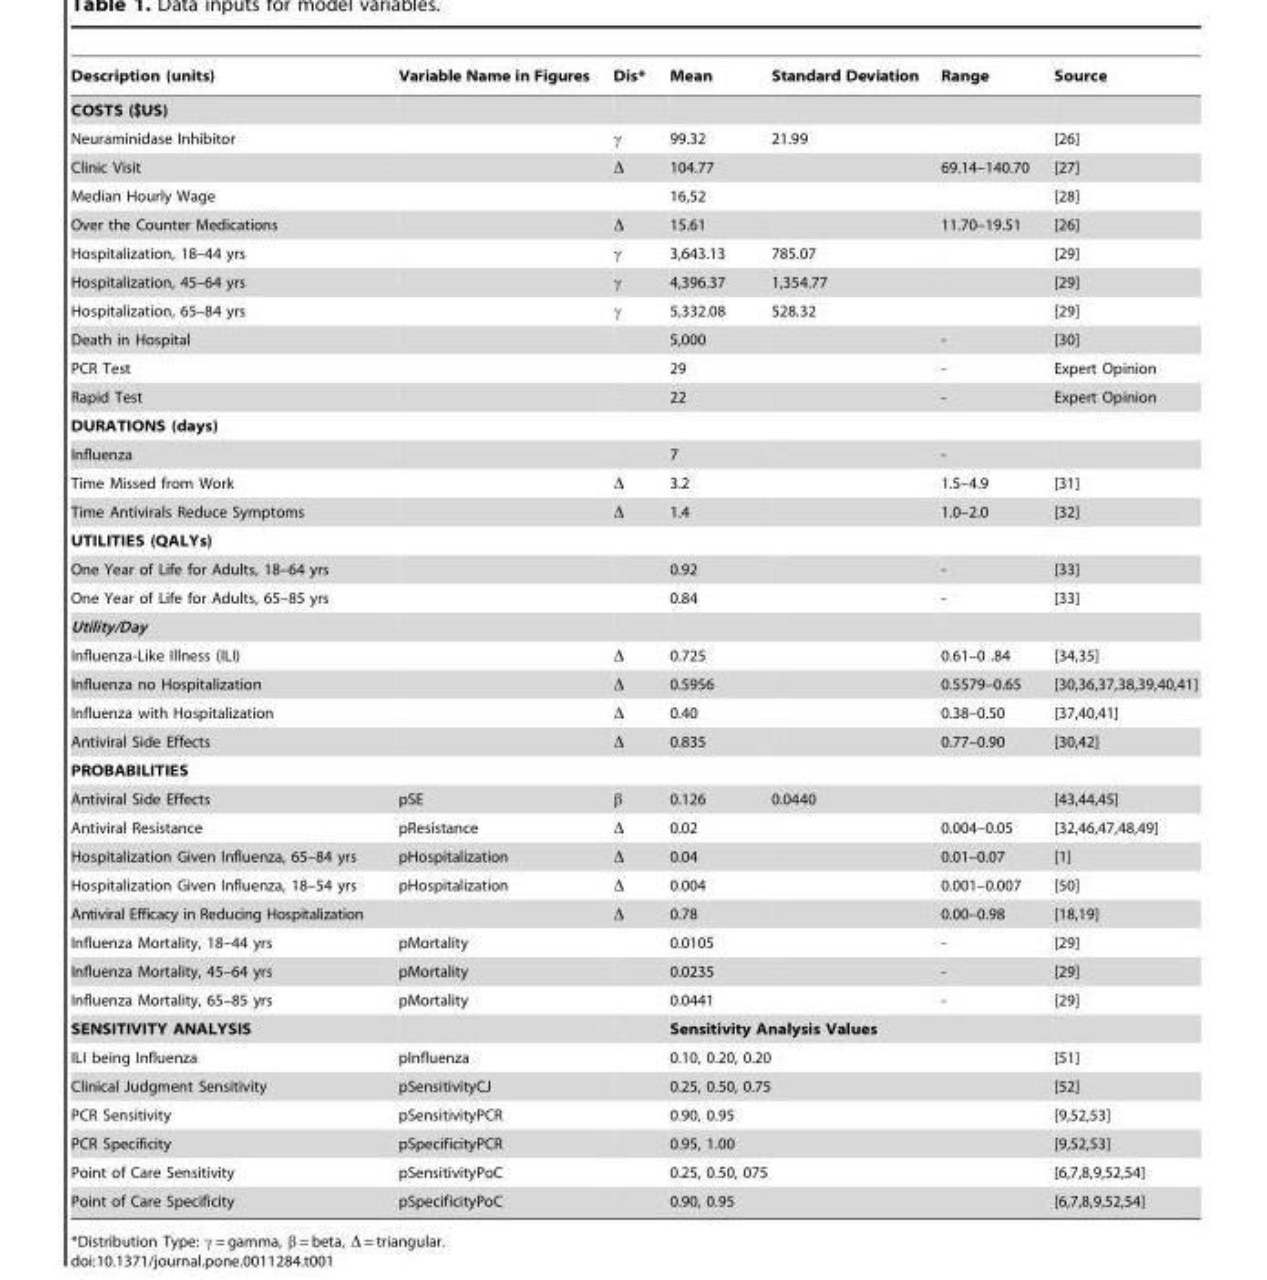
<table><thead><tr><td>Description (units)</td><td>Variable Name in Figures</td><td>Dis*</td><td>Mean</td><td>Standard Deviation</td><td>Range</td><td>Source</td></tr></thead><tbody><tr><td colspan="7">COSTS ($US)</td></tr><tr><td>Neuraminidase Inhibitor</td><td></td><td>γ</td><td>99.32</td><td>21.99</td><td></td><td>[26]</td></tr><tr><td>Clinic Visit</td><td></td><td>Δ</td><td>104.77</td><td></td><td>69.14–140.70</td><td>[27]</td></tr><tr><td>Median Hourly Wage</td><td></td><td></td><td>16,52</td><td></td><td></td><td>[28]</td></tr><tr><td>Over the Counter Medications</td><td></td><td>Δ</td><td>15.61</td><td></td><td>11.70–19.51</td><td>[26]</td></tr><tr><td>Hospitalization, 18–44 yrs</td><td></td><td>γ</td><td>3,643.13</td><td>785.07</td><td></td><td>[29]</td></tr><tr><td>Hospitalization, 45–64 yrs</td><td></td><td>γ</td><td>4,396.37</td><td>1,354.77</td><td></td><td>[29]</td></tr><tr><td>Hospitalization, 65–84 yrs</td><td></td><td>γ</td><td>5,332.08</td><td>528.32</td><td></td><td>[29]</td></tr><tr><td>Death in Hospital</td><td></td><td></td><td>5,000</td><td></td><td>-</td><td>[30]</td></tr><tr><td>PCR Test</td><td></td><td></td><td>29</td><td></td><td>-</td><td>Expert Opinion</td></tr><tr><td>Rapid Test</td><td></td><td></td><td>22</td><td></td><td>-</td><td>Expert Opinion</td></tr><tr><td colspan="7">DURATIONS (days)</td></tr><tr><td>Influenza</td><td></td><td></td><td>7</td><td></td><td>-</td><td></td></tr><tr><td>Time Missed from Work</td><td></td><td>Δ</td><td>3.2</td><td></td><td>1.5–4.9</td><td>[31]</td></tr><tr><td>Time Antivirals Reduce Symptoms</td><td></td><td>Δ</td><td>1.4</td><td></td><td>1.0–2.0</td><td>[32]</td></tr><tr><td colspan="7">UTILITIES (QALYs)</td></tr><tr><td>One Year of Life for Adults, 18–64 yrs</td><td></td><td></td><td>0.92</td><td></td><td>-</td><td>[33]</td></tr><tr><td>One Year of Life for Adults, 65–85 yrs</td><td></td><td></td><td>0.84</td><td></td><td>-</td><td>[33]</td></tr><tr><td colspan="7">Utility/Day</td></tr><tr><td>Influenza-Like Illness (ILI)</td><td></td><td>Δ</td><td>0.725</td><td></td><td>0.61–0 .84</td><td>[34,35]</td></tr><tr><td>Influenza no Hospitalization</td><td></td><td>Δ</td><td>0.5956</td><td></td><td>0.5579–0.65</td><td>[30,36,37,38,39,40,41]</td></tr><tr><td>Influenza with Hospitalization</td><td></td><td>Δ</td><td>0.40</td><td></td><td>0.38–0.50</td><td>[37,40,41]</td></tr><tr><td>Antiviral Side Effects</td><td></td><td>Δ</td><td>0.835</td><td></td><td>0.77–0.90</td><td>[30,42]</td></tr><tr><td colspan="7">PROBABILITIES</td></tr><tr><td>Antiviral Side Effects</td><td>pSE</td><td>β</td><td>0.126</td><td>0.0440</td><td></td><td>[43,44,45]</td></tr><tr><td>Antiviral Resistance</td><td>pResistance</td><td>Δ</td><td>0.02</td><td></td><td>0.004–0.05</td><td>[32,46,47,48,49]</td></tr><tr><td>Hospitalization Given Influenza, 65–84 yrs</td><td>pHospitalization</td><td>Δ</td><td>0.04</td><td></td><td>0.01–0.07</td><td>[1]</td></tr><tr><td>Hospitalization Given Influenza, 18–54 yrs</td><td>pHospitalization</td><td>Δ</td><td>0.004</td><td></td><td>0.001–0.007</td><td>[50]</td></tr><tr><td>Antiviral Efficacy in Reducing Hospitalization</td><td></td><td>Δ</td><td>0.78</td><td></td><td>0.00–0.98</td><td>[18,19]</td></tr><tr><td>Influenza Mortality, 18–44 yrs</td><td>pMortality</td><td></td><td>0.0105</td><td></td><td>-</td><td>[29]</td></tr><tr><td>Influenza Mortality, 45–64 yrs</td><td>pMortality</td><td></td><td>0.0235</td><td></td><td>-</td><td>[29]</td></tr><tr><td>Influenza Mortality, 65–85 yrs</td><td>pMortality</td><td></td><td>0.0441</td><td></td><td>-</td><td>[29]</td></tr><tr><td>SENSITIVITY ANALYSIS</td><td></td><td></td><td colspan="3">Sensitivity Analysis Values</td><td></td></tr><tr><td>ILI being Influenza</td><td>pInfluenza</td><td></td><td colspan="3">0.10, 0.20, 0.20</td><td>[51]</td></tr><tr><td>Clinical Judgment Sensitivity</td><td>pSensitivityCJ</td><td></td><td colspan="3">0.25, 0.50, 0.75</td><td>[52]</td></tr><tr><td>PCR Sensitivity</td><td>pSensitivityPCR</td><td></td><td colspan="3">0.90, 0.95</td><td>[9,52,53]</td></tr><tr><td>PCR Specificity</td><td>pSpecificityPCR</td><td></td><td colspan="3">0.95, 1.00</td><td>[9,52,53]</td></tr><tr><td>Point of Care Sensitivity</td><td>pSensitivityPoC</td><td></td><td colspan="3">0.25, 0.50, 075</td><td>[6,7,8,9,52,54]</td></tr><tr><td>Point of Care Specificity</td><td>pSpecificityPoC</td><td></td><td colspan="3">0.90, 0.95</td><td>[6,7,8,9,52,54]</td></tr></tbody></table>